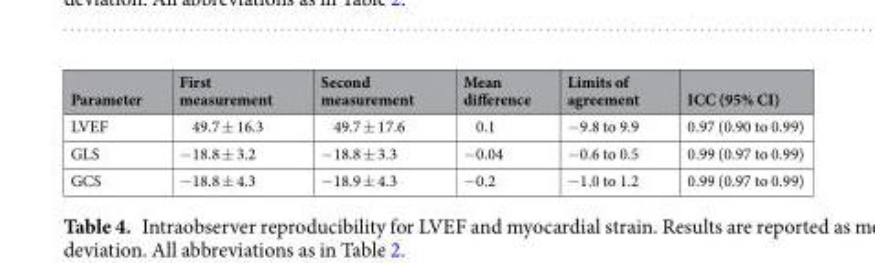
<table><thead><tr><td>Parameter</td><td>First measurement</td><td>Second measurement</td><td>Mean difference</td><td>Limits of agreement</td><td>ICC (95% CI)</td></tr></thead><tbody><tr><td>LVEF</td><td>49.7 ± 16.3</td><td>49.7 ± 17.6</td><td>0.1</td><td>−9.8 to 9.9</td><td>0.97 (0.90 to 0.99)</td></tr><tr><td>GLS</td><td>−18.8 ± 3.2</td><td>−18.8 ± 3.3</td><td>−0.04</td><td>−0.6 to 0.5</td><td>0.99 (0.97 to 0.99)</td></tr><tr><td>GCS</td><td>−18.8 ± 4.3</td><td>−18.9 ± 4.3</td><td>−0.2</td><td>−1.0 to 1.2</td><td>0.99 (0.97 to 0.99)</td></tr></tbody></table>